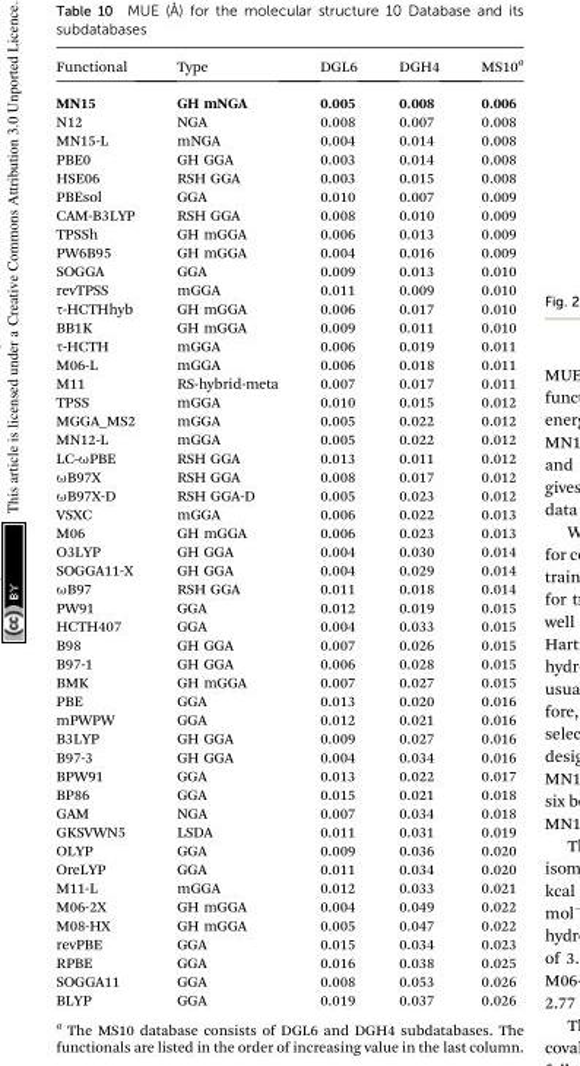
<table><thead><tr><td>Functional</td><td>Type</td><td>DGL6</td><td>DGH4</td><td>MS10<sup>a</sup></td></tr></thead><tbody><tr><td>MN15</td><td>GH mNGA</td><td>0.005</td><td>0.008</td><td>0.006</td></tr><tr><td>N12</td><td>NGA</td><td>0.008</td><td>0.007</td><td>0.008</td></tr><tr><td>MN15-L</td><td>mNGA</td><td>0.004</td><td>0.014</td><td>0.008</td></tr><tr><td>PBE0</td><td>GH GGA</td><td>0.003</td><td>0.014</td><td>0.008</td></tr><tr><td>HSE06</td><td>RSH GGA</td><td>0.003</td><td>0.015</td><td>0.008</td></tr><tr><td>PBEsol</td><td>GGA</td><td>0.010</td><td>0.007</td><td>0.009</td></tr><tr><td>CAM-B3LYP</td><td>RSH GGA</td><td>0.008</td><td>0.010</td><td>0.009</td></tr><tr><td>TPSSh</td><td>GH mGGA</td><td>0.006</td><td>0.013</td><td>0.009</td></tr><tr><td>PW6B95</td><td>GH mGGA</td><td>0.004</td><td>0.016</td><td>0.009</td></tr><tr><td>SOGGA</td><td>GGA</td><td>0.009</td><td>0.013</td><td>0.010</td></tr><tr><td>revTPSS</td><td>mGGA</td><td>0.011</td><td>0.009</td><td>0.010</td></tr><tr><td>τ-HCTHhyb</td><td>GH mGGA</td><td>0.006</td><td>0.017</td><td>0.010</td></tr><tr><td>BB1K</td><td>GH mGGA</td><td>0.009</td><td>0.011</td><td>0.010</td></tr><tr><td>τ-HCTH</td><td>mGGA</td><td>0.006</td><td>0.019</td><td>0.011</td></tr><tr><td>M06-L</td><td>mGGA</td><td>0.006</td><td>0.018</td><td>0.011</td></tr><tr><td>M11</td><td>RS-hybrid-meta</td><td>0.007</td><td>0.017</td><td>0.011</td></tr><tr><td>TPSS</td><td>mGGA</td><td>0.010</td><td>0.015</td><td>0.012</td></tr><tr><td>MGGA_MS2</td><td>mGGA</td><td>0.005</td><td>0.022</td><td>0.012</td></tr><tr><td>MN12-L</td><td>mGGA</td><td>0.005</td><td>0.022</td><td>0.012</td></tr><tr><td>LC-ωPBE</td><td>RSH GGA</td><td>0.013</td><td>0.011</td><td>0.012</td></tr><tr><td>ωB97X</td><td>RSH GGA</td><td>0.008</td><td>0.017</td><td>0.012</td></tr><tr><td>ωB97X-D</td><td>RSH GGA-D</td><td>0.005</td><td>0.023</td><td>0.012</td></tr><tr><td>VSXC</td><td>mGGA</td><td>0.006</td><td>0.022</td><td>0.013</td></tr><tr><td>M06</td><td>GH mGGA</td><td>0.006</td><td>0.023</td><td>0.013</td></tr><tr><td>O3LYP</td><td>GH GGA</td><td>0.004</td><td>0.030</td><td>0.014</td></tr><tr><td>SOGGA11-X</td><td>GH GGA</td><td>0.004</td><td>0.029</td><td>0.014</td></tr><tr><td>ωB97</td><td>RSH GGA</td><td>0.011</td><td>0.018</td><td>0.014</td></tr><tr><td>PW91</td><td>GGA</td><td>0.012</td><td>0.019</td><td>0.015</td></tr><tr><td>HCTH407</td><td>GGA</td><td>0.004</td><td>0.033</td><td>0.015</td></tr><tr><td>B98</td><td>GH GGA</td><td>0.007</td><td>0.026</td><td>0.015</td></tr><tr><td>B97-1</td><td>GH GGA</td><td>0.006</td><td>0.028</td><td>0.015</td></tr><tr><td>BMK</td><td>GH mGGA</td><td>0.007</td><td>0.027</td><td>0.015</td></tr><tr><td>PBE</td><td>GGA</td><td>0.013</td><td>0.020</td><td>0.016</td></tr><tr><td>mPWPW</td><td>GGA</td><td>0.012</td><td>0.021</td><td>0.016</td></tr><tr><td>B3LYP</td><td>GH GGA</td><td>0.009</td><td>0.027</td><td>0.016</td></tr><tr><td>B97-3</td><td>GH GGA</td><td>0.004</td><td>0.034</td><td>0.016</td></tr><tr><td>BPW91</td><td>GGA</td><td>0.013</td><td>0.022</td><td>0.017</td></tr><tr><td>BP86</td><td>GGA</td><td>0.015</td><td>0.021</td><td>0.018</td></tr><tr><td>GAM</td><td>NGA</td><td>0.007</td><td>0.034</td><td>0.018</td></tr><tr><td>GKSVWN5</td><td>LSDA</td><td>0.011</td><td>0.031</td><td>0.019</td></tr><tr><td>OLYP</td><td>GGA</td><td>0.009</td><td>0.036</td><td>0.020</td></tr><tr><td>OreLYP</td><td>GGA</td><td>0.011</td><td>0.034</td><td>0.020</td></tr><tr><td>M11-L</td><td>mGGA</td><td>0.012</td><td>0.033</td><td>0.021</td></tr><tr><td>M06-2X</td><td>GH mGGA</td><td>0.004</td><td>0.049</td><td>0.022</td></tr><tr><td>M08-HX</td><td>GH mGGA</td><td>0.005</td><td>0.047</td><td>0.022</td></tr><tr><td>revPBE</td><td>GGA</td><td>0.015</td><td>0.034</td><td>0.023</td></tr><tr><td>RPBE</td><td>GGA</td><td>0.016</td><td>0.038</td><td>0.025</td></tr><tr><td>SOGGA11</td><td>GGA</td><td>0.008</td><td>0.053</td><td>0.026</td></tr><tr><td>BLYP</td><td>GGA</td><td>0.019</td><td>0.037</td><td>0.026</td></tr></tbody></table>